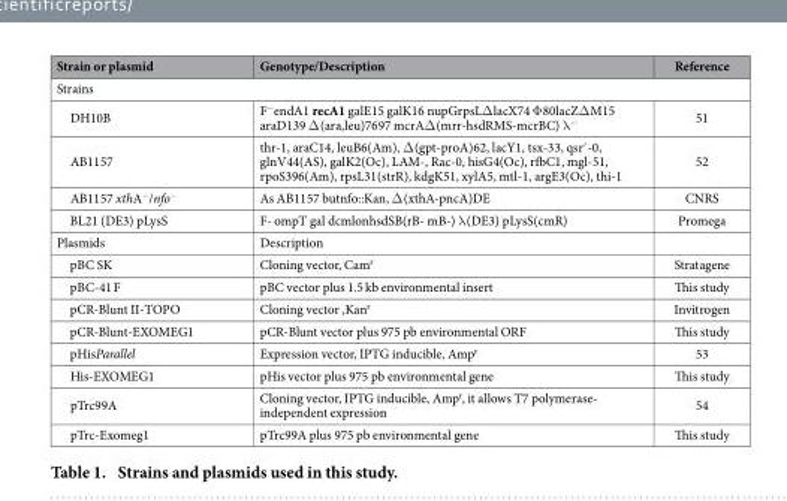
<table><thead><tr><td>Strain or plasmid</td><td>Genotype/Description</td><td>Reference</td></tr></thead><tbody><tr><td colspan="3">Strains</td></tr><tr><td>DH10B</td><td>F<sup>−</sup>endA1 recA1 galE15 galK16 nupGrpsLΔ lacX74 Φ 80lacZΔ M15 araD139 Δ (ara,leu)7697 mcrAΔ (mrr-hsdRMS-mcrBC) λ <sup>−</sup></td><td>51</td></tr><tr><td>AB1157</td><td>thr-1, araC14, leuB6(Am), Δ (gpt-proA)62, lacY1, tsx-33, qsr′ -0, glnV44(AS), galK2(Oc), LAM-, Rac-0, hisG4(Oc), rfbC1, mgl-51, rpoS396(Am), rpsL31(strR), kdgK51, xylA5, mtl-1, argE3(Oc), thi-1</td><td>52</td></tr><tr><td>AB1157 xthA<sup>−</sup>/nfo<sup>−</sup></td><td>As AB1157 butnfo::Kan, Δ (xthA-pncA)DE</td><td>CNRS</td></tr><tr><td>BL21 (DE3) pLysS</td><td>F- ompT gal dcmlonhsdSB(rB- mB-) λ (DE3) pLysS(cmR)</td><td>Promega</td></tr><tr><td>Plasmids</td><td>Description</td><td></td></tr><tr><td>pBC SK</td><td>Cloning vector, Cam<sup>r</sup></td><td>Stratagene</td></tr><tr><td>pBC-41 F</td><td>pBC vector plus 1.5 kb environmental insert</td><td>This study</td></tr><tr><td>pCR-Blunt II-TOPO</td><td>Cloning vector ,Kan<sup>r</sup></td><td>Invitrogen</td></tr><tr><td>pCR-Blunt-EXOMEG1</td><td>pCR-Blunt vector plus 975 pb environmental ORF</td><td>This study</td></tr><tr><td>pHisParallel</td><td>Expression vector, IPTG inducible, Amp<sup>r</sup></td><td>53</td></tr><tr><td>His-EXOMEG1</td><td>pHis vector plus 975 pb environmental gene</td><td>This study</td></tr><tr><td>pTrc99A</td><td>Cloning vector, IPTG inducible, Amp<sup>r</sup>, it allows T7 polymerase- independent expression</td><td>54</td></tr><tr><td>pTrc-Exomeg1</td><td>pTrc99A plus 975 pb environmental gene</td><td>This study</td></tr></tbody></table>